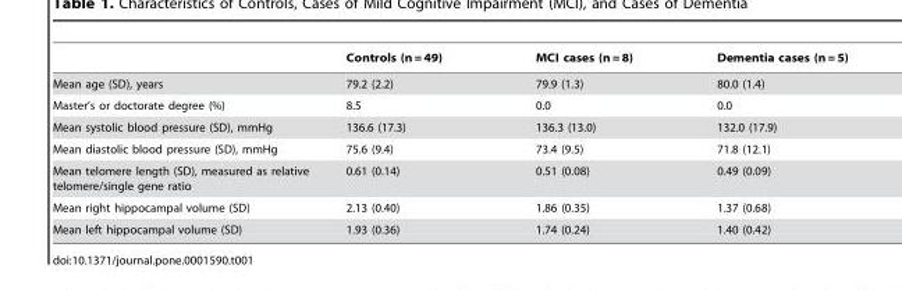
<table><thead><tr><td></td><td>Controls (n = 49)</td><td>MCI cases (n = 8)</td><td>Dementia cases (n = 5)</td></tr></thead><tbody><tr><td>Mean age (SD), years</td><td>79.2 (2.2)</td><td>79.9 (1.3)</td><td>80.0 (1.4)</td></tr><tr><td>Master’s or doctorate degree (%)</td><td>8.5</td><td>0.0</td><td>0.0</td></tr><tr><td>Mean systolic blood pressure (SD), mmHg</td><td>136.6 (17.3)</td><td>136.3 (13.0)</td><td>132.0 (17.9)</td></tr><tr><td>Mean diastolic blood pressure (SD), mmHg</td><td>75.6 (9.4)</td><td>73.4 (9.5)</td><td>71.8 (12.1)</td></tr><tr><td>Mean telomere length (SD), measured as relative telomere/single gene ratio</td><td>0.61 (0.14)</td><td>0.51 (0.08)</td><td>0.49 (0.09)</td></tr><tr><td>Mean right hippocampal volume (SD)</td><td>2.13 (0.40)</td><td>1.86 (0.35)</td><td>1.37 (0.68)</td></tr><tr><td>Mean left hippocampal volume (SD)</td><td>1.93 (0.36)</td><td>1.74 (0.24)</td><td>1.40 (0.42)</td></tr></tbody></table>